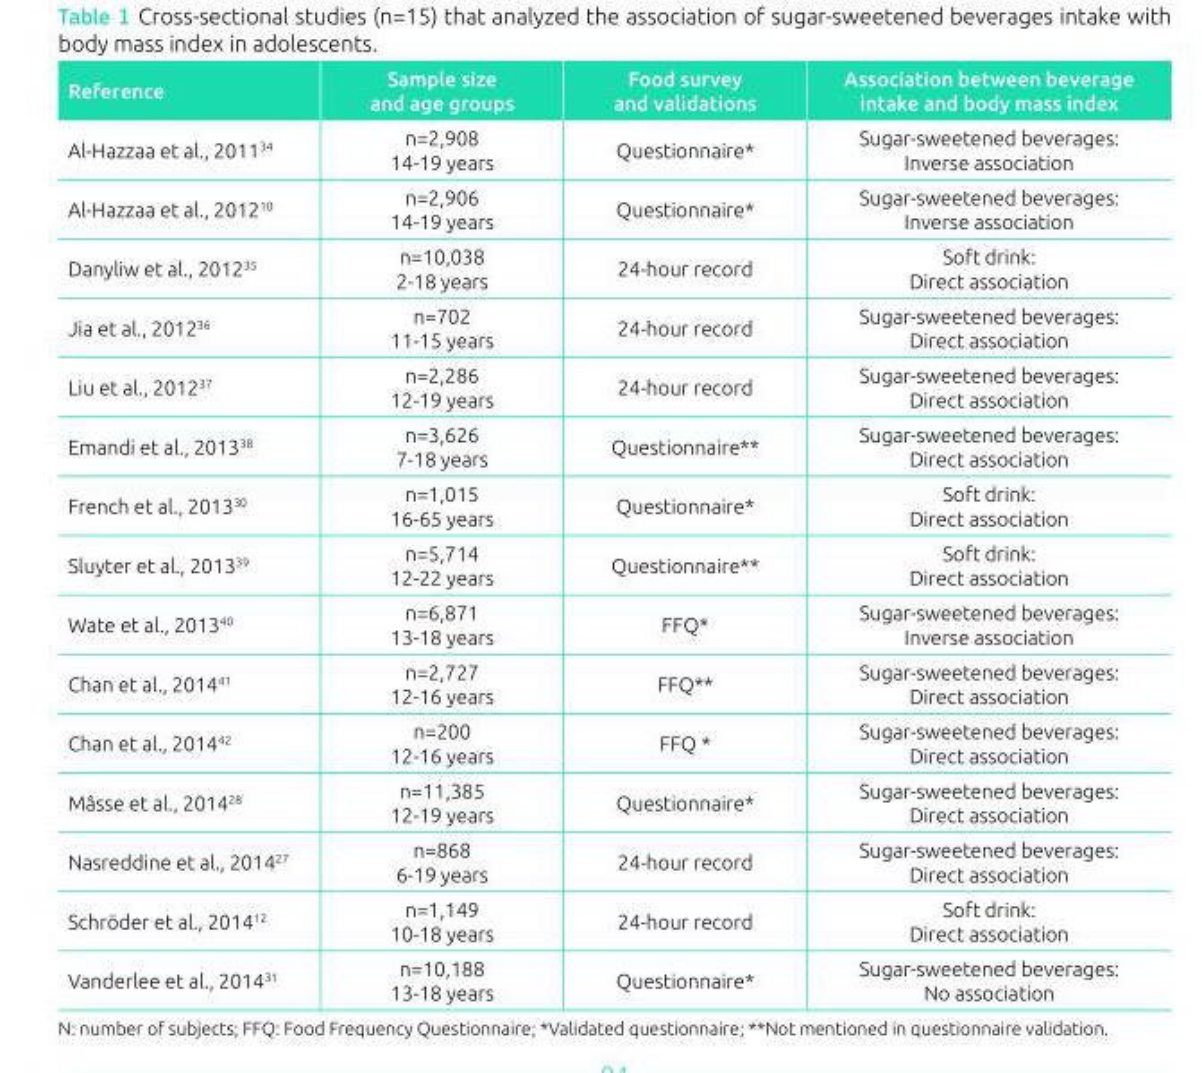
<table><thead><tr><td>Reference</td><td>Sample size and age groups</td><td>Food survey and validations</td><td>Association between beverage intake and body mass index</td></tr></thead><tbody><tr><td>Al-Hazzaa et al., 2011<sup>34</sup></td><td>n=2,908 14-19 years</td><td>Questionnaire*</td><td>Sugar-sweetened beverages: Inverse association</td></tr><tr><td>Al-Hazzaa et al., 2012<sup>10</sup></td><td>n=2,906 14-19 years</td><td>Questionnaire*</td><td>Sugar-sweetened beverages: Inverse association</td></tr><tr><td>Danyliw et al., 2012<sup>35</sup></td><td>n=10,038 2-18 years</td><td>24-hour record</td><td>Soft drink: Direct association</td></tr><tr><td>Jia et al., 2012<sup>36</sup></td><td>n=702 11-15 years</td><td>24-hour record</td><td>Sugar-sweetened beverages: Direct association</td></tr><tr><td>Liu et al., 2012<sup>37</sup></td><td>n=2,286 12-19 years</td><td>24-hour record</td><td>Sugar-sweetened beverages: Direct association</td></tr><tr><td>Emandi et al., 2013<sup>38</sup></td><td>n=3,626 7-18 years</td><td>Questionnaire**</td><td>Sugar-sweetened beverages: Direct association</td></tr><tr><td>French et al., 2013<sup>30</sup></td><td>n=1,015 16-65 years</td><td>Questionnaire*</td><td>Soft drink: Direct association</td></tr><tr><td>Sluyter et al., 2013<sup>39</sup></td><td>n=5,714 12-22 years</td><td>Questionnaire**</td><td>Soft drink: Direct association</td></tr><tr><td>Wate et al., 2013<sup>40</sup></td><td>n=6,871 13-18 years</td><td>FFQ*</td><td>Sugar-sweetened beverages: Inverse association</td></tr><tr><td>Chan et al., 2014<sup>41</sup></td><td>n=2,727 12-16 years</td><td>FFQ**</td><td>Sugar-sweetened beverages: Direct association</td></tr><tr><td>Chan et al., 2014<sup>42</sup></td><td>n=200 12-16 years</td><td>FFQ *</td><td>Sugar-sweetened beverages: Direct association</td></tr><tr><td>Mâsse et al., 2014<sup>28</sup></td><td>n=11,385 12-19 years</td><td>Questionnaire*</td><td>Sugar-sweetened beverages: Direct association</td></tr><tr><td>Nasreddine et al., 2014<sup>27</sup></td><td>n=868 6-19 years</td><td>24-hour record</td><td>Sugar-sweetened beverages: Direct association</td></tr><tr><td>Schröder et al., 2014<sup>12</sup></td><td>n=1,149 10-18 years</td><td>24-hour record</td><td>Soft drink: Direct association</td></tr><tr><td>Vanderlee et al., 2014<sup>31</sup></td><td>n=10,188 13-18 years</td><td>Questionnaire*</td><td>Sugar-sweetened beverages: No association</td></tr></tbody></table>